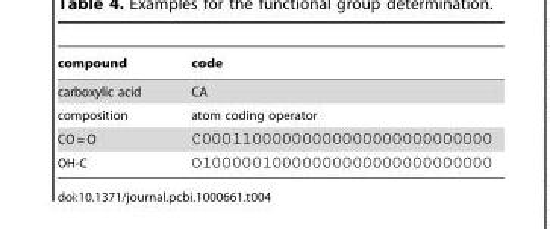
<table><thead><tr><td>compound</td><td>code</td></tr></thead><tbody><tr><td>carboxylic acid</td><td>CA</td></tr><tr><td>composition</td><td>atom coding operator</td></tr><tr><td>CO = O</td><td>C00011000000000000000000000000</td></tr><tr><td>OH-C</td><td>O10000010000000000000000000000</td></tr></tbody></table>